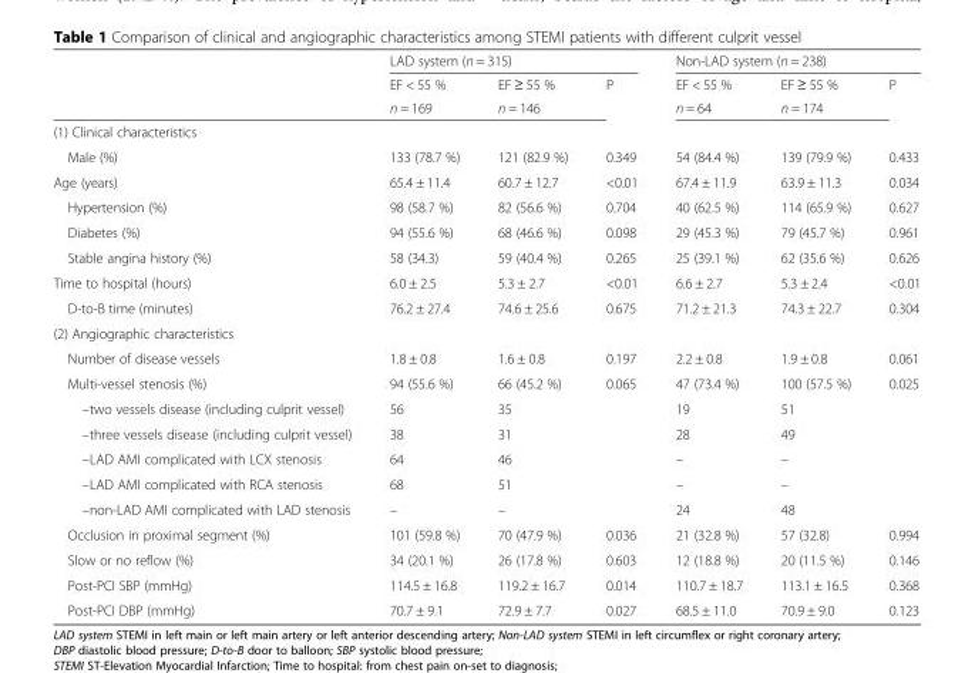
<table><thead><tr><td rowspan="3"></td><td colspan="3">LAD system (n = 315)</td><td colspan="3">Non-LAD system (n = 238)</td></tr><tr><td rowspan="2">EF &lt; 55 % n = 169</td><td rowspan="2">EF ≥ 55 % n = 146</td><td rowspan="2">P</td><td rowspan="2">EF &lt; 55 % n = 64</td><td rowspan="2">EF ≥ 55 % n = 174</td><td rowspan="2">P</td></tr><tr></tr></thead><tbody><tr><td colspan="7">(1) Clinical characteristics</td></tr><tr><td>Male (%)</td><td>133 (78.7 %)</td><td>121 (82.9 %)</td><td>0.349</td><td>54 (84.4 %)</td><td>139 (79.9 %)</td><td>0.433</td></tr><tr><td>Age (years)</td><td>65.4 ± 11.4</td><td>60.7 ± 12.7</td><td>&lt;0.01</td><td>67.4 ± 11.9</td><td>63.9 ± 11.3</td><td>0.034</td></tr><tr><td>Hypertension (%)</td><td>98 (58.7 %)</td><td>82 (56.6 %)</td><td>0.704</td><td>40 (62.5 %)</td><td>114 (65.9 %)</td><td>0.627</td></tr><tr><td>Diabetes (%)</td><td>94 (55.6 %)</td><td>68 (46.6 %)</td><td>0.098</td><td>29 (45.3 %)</td><td>79 (45.7 %)</td><td>0.961</td></tr><tr><td>Stable angina history (%)</td><td>58 (34.3)</td><td>59 (40.4 %)</td><td>0.265</td><td>25 (39.1 %)</td><td>62 (35.6 %)</td><td>0.626</td></tr><tr><td>Time to hospital (hours)</td><td>6.0 ± 2.5</td><td>5.3 ± 2.7</td><td>&lt;0.01</td><td>6.6 ± 2.7</td><td>5.3 ± 2.4</td><td>&lt;0.01</td></tr><tr><td>D-to-B time (minutes)</td><td>76.2 ± 27.4</td><td>74.6 ± 25.6</td><td>0.675</td><td>71.2 ± 21.3</td><td>74.3 ± 22.7</td><td>0.304</td></tr><tr><td colspan="7">(2) Angiographic characteristics</td></tr><tr><td>Number of disease vessels</td><td>1.8 ± 0.8</td><td>1.6 ± 0.8</td><td>0.197</td><td>2.2 ± 0.8</td><td>1.9 ± 0.8</td><td>0.061</td></tr><tr><td>Multi-vessel stenosis (%)</td><td>94 (55.6 %)</td><td>66 (45.2 %)</td><td>0.065</td><td>47 (73.4 %)</td><td>100 (57.5 %)</td><td>0.025</td></tr><tr><td>–two vessels disease (including culprit vessel)</td><td>56</td><td>35</td><td></td><td>19</td><td>51</td><td></td></tr><tr><td>–three vessels disease (including culprit vessel)</td><td>38</td><td>31</td><td></td><td>28</td><td>49</td><td></td></tr><tr><td>–LAD AMI complicated with LCX stenosis</td><td>64</td><td>46</td><td></td><td>–</td><td>–</td><td></td></tr><tr><td>–LAD AMI complicated with RCA stenosis</td><td>68</td><td>51</td><td></td><td>–</td><td>–</td><td></td></tr><tr><td>–non-LAD AMI complicated with LAD stenosis</td><td>–</td><td>–</td><td></td><td>24</td><td>48</td><td></td></tr><tr><td>Occlusion in proximal segment (%)</td><td>101 (59.8 %)</td><td>70 (47.9 %)</td><td>0.036</td><td>21 (32.8 %)</td><td>57 (32.8)</td><td>0.994</td></tr><tr><td>Slow or no reflow (%)</td><td>34 (20.1 %)</td><td>26 (17.8 %)</td><td>0.603</td><td>12 (18.8 %)</td><td>20 (11.5 %)</td><td>0.146</td></tr><tr><td>Post-PCI SBP (mmHg)</td><td>114.5 ± 16.8</td><td>119.2 ± 16.7</td><td>0.014</td><td>110.7 ± 18.7</td><td>113.1 ± 16.5</td><td>0.368</td></tr><tr><td>Post-PCI DBP (mmHg)</td><td>70.7 ± 9.1</td><td>72.9 ± 7.7</td><td>0.027</td><td>68.5 ± 11.0</td><td>70.9 ± 9.0</td><td>0.123</td></tr></tbody></table>